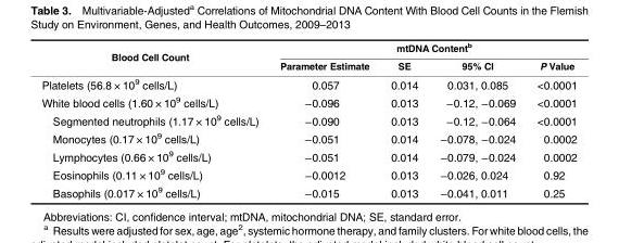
<table><thead><tr><td rowspan="2">Blood Cell Count</td><td colspan="4">mtDNA Content<sup>b</sup></td></tr><tr><td>Parameter Estimate</td><td>SE</td><td>95% CI</td><td>P Value</td></tr></thead><tbody><tr><td>Platelets (56.8 × 10<sup>9</sup> cells/L)</td><td>0.057</td><td>0.014</td><td>0.031, 0.085</td><td>&lt;0.0001</td></tr><tr><td>White blood cells (1.60 × 10<sup>9</sup> cells/L)</td><td>−0.096</td><td>0.013</td><td>−0.12, −0.069</td><td>&lt;0.0001</td></tr><tr><td>Segmented neutrophils (1.17 × 10<sup>9</sup> cells/L)</td><td>−0.090</td><td>0.013</td><td>−0.12, −0.064</td><td>&lt;0.0001</td></tr><tr><td>Monocytes (0.17 × 10<sup>9</sup> cells/L)</td><td>−0.051</td><td>0.014</td><td>−0.078, −0.024</td><td>0.0002</td></tr><tr><td>Lymphocytes (0.66 × 10<sup>9</sup> cells/L)</td><td>−0.051</td><td>0.014</td><td>−0.079, −0.024</td><td>0.0002</td></tr><tr><td>Eosinophils (0.11 × 10<sup>9</sup> cells/L)</td><td>−0.0012</td><td>0.013</td><td>−0.026, 0.024</td><td>0.92</td></tr><tr><td>Basophils (0.017 × 10<sup>9</sup> cells/L)</td><td>−0.015</td><td>0.013</td><td>−0.041, 0.011</td><td>0.25</td></tr></tbody></table>